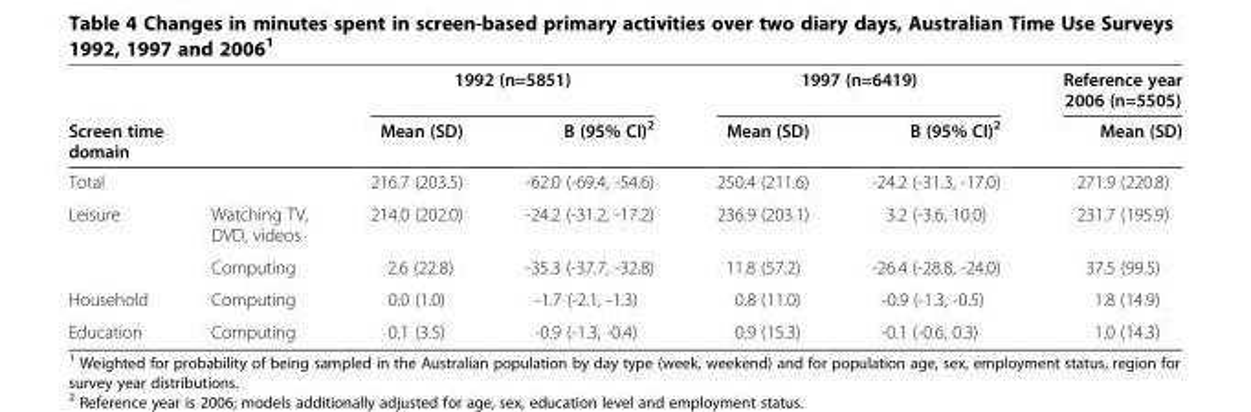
<table><thead><tr><td></td><td></td><td colspan="2">1992 (n=5851)</td><td colspan="2">1997 (n=6419)</td><td rowspan="2">Reference year 2006 (n=5505) Mean (SD)</td></tr><tr><td colspan="2">Screen time domain</td><td>Mean (SD)</td><td>B (95% CI)<sup>2</sup></td><td>Mean (SD)</td><td>B (95% CI)<sup>2</sup></td></tr></thead><tbody><tr><td>Total</td><td></td><td>216.7 (203.5)</td><td>-62.0 (-69.4, -54.6)</td><td>250.4 (211.6)</td><td>-24.2 (-31.3, -17.0)</td><td>271.9 (220.8)</td></tr><tr><td rowspan="2">Leisure</td><td>Watching TV, DVD, videos</td><td>214.0 (202.0)</td><td>-24.2 (-31.2, -17.2)</td><td>236.9 (203.1)</td><td>3.2 (-3.6, 10.0)</td><td>231.7 (195.9)</td></tr><tr><td>Computing</td><td>2.6 (22.8)</td><td>-35.3 (-37.7, -32.8)</td><td>11.8 (57.2)</td><td>-26.4 (-28.8, -24.0)</td><td>37.5 (99.5)</td></tr><tr><td>Household</td><td>Computing</td><td>0.0 (1.0)</td><td>-1.7 (-2.1, -1.3)</td><td>0.8 (11.0)</td><td>-0.9 (-1.3, -0.5)</td><td>1.8 (14.9)</td></tr><tr><td>Education</td><td>Computing</td><td>0.1 (3.5)</td><td>-0.9 (-1.3, -0.4)</td><td>0.9 (15.3)</td><td>-0.1 (-0.6, 0.3)</td><td>1.0 (14.3)</td></tr></tbody></table>